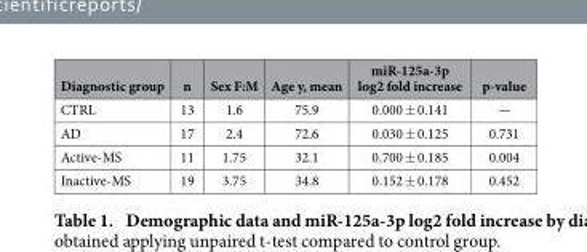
<table><thead><tr><td>Diagnostic group</td><td>n</td><td>Sex F:M</td><td>Age y, mean</td><td>miR-125a-3p log2 fold increase</td><td>p-value</td></tr></thead><tbody><tr><td>CTRL</td><td>13</td><td>1.6</td><td>75.9</td><td>0.000 ± 0.141</td><td>—</td></tr><tr><td>AD</td><td>17</td><td>2.4</td><td>72.6</td><td>0.030 ± 0.125</td><td>0.731</td></tr><tr><td>Active-MS</td><td>11</td><td>1.75</td><td>32.1</td><td>0.700 ± 0.185</td><td>0.004</td></tr><tr><td>Inactive-MS</td><td>19</td><td>3.75</td><td>34.8</td><td>0.152 ± 0.178</td><td>0.452</td></tr></tbody></table>